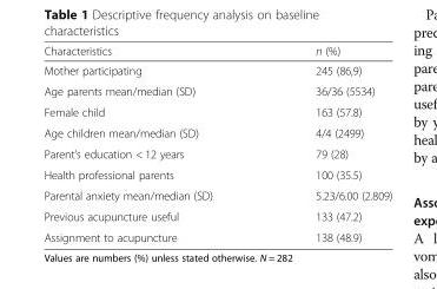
<table><thead><tr><td>Characteristics</td><td>n (%)</td></tr></thead><tbody><tr><td>Mother participating</td><td>245 (86,9)</td></tr><tr><td>Age parents mean/median (SD)</td><td>36/36 (5534)</td></tr><tr><td>Female child</td><td>163 (57.8)</td></tr><tr><td>Age children mean/median (SD)</td><td>4/4 (2499)</td></tr><tr><td>Parent’s education &lt; 12 years</td><td>79 (28)</td></tr><tr><td>Health professional parents</td><td>100 (35.5)</td></tr><tr><td>Parental anxiety mean/median (SD)</td><td>5.23/6.00 (2.809)</td></tr><tr><td>Previous acupuncture useful</td><td>133 (47.2)</td></tr><tr><td>Assignment to acupuncture</td><td>138 (48.9)</td></tr></tbody></table>